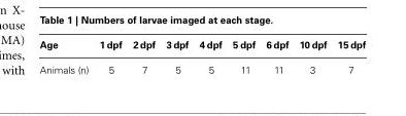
<table><thead><tr><td>Age</td><td>1 dpf</td><td>2 dpf</td><td>3 dpf</td><td>4 dpf</td><td>5 dpf</td><td>6 dpf</td><td>10 dpf</td><td>15 dpf</td></tr></thead><tbody><tr><td>Animals (n)</td><td>5</td><td>7</td><td>5</td><td>5</td><td>11</td><td>11</td><td>3</td><td>7</td></tr></tbody></table>